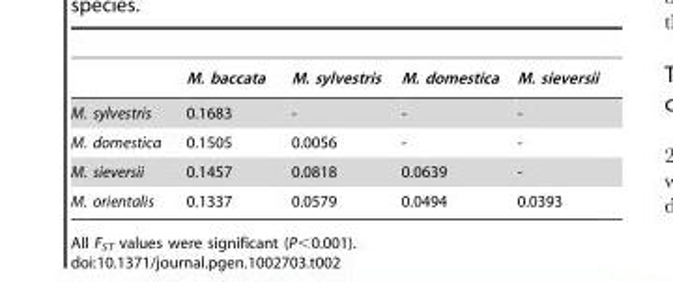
<table><thead><tr><td></td><td>M. baccata</td><td>M. sylvestris</td><td>M. domestica</td><td>M. sieversii</td></tr></thead><tbody><tr><td>M. sylvestris</td><td>0.1683</td><td>-</td><td>-</td><td>-</td></tr><tr><td>M. domestica</td><td>0.1505</td><td>0.0056</td><td>-</td><td>-</td></tr><tr><td>M. sieversii</td><td>0.1457</td><td>0.0818</td><td>0.0639</td><td>-</td></tr><tr><td>M. orientalis</td><td>0.1337</td><td>0.0579</td><td>0.0494</td><td>0.0393</td></tr></tbody></table>